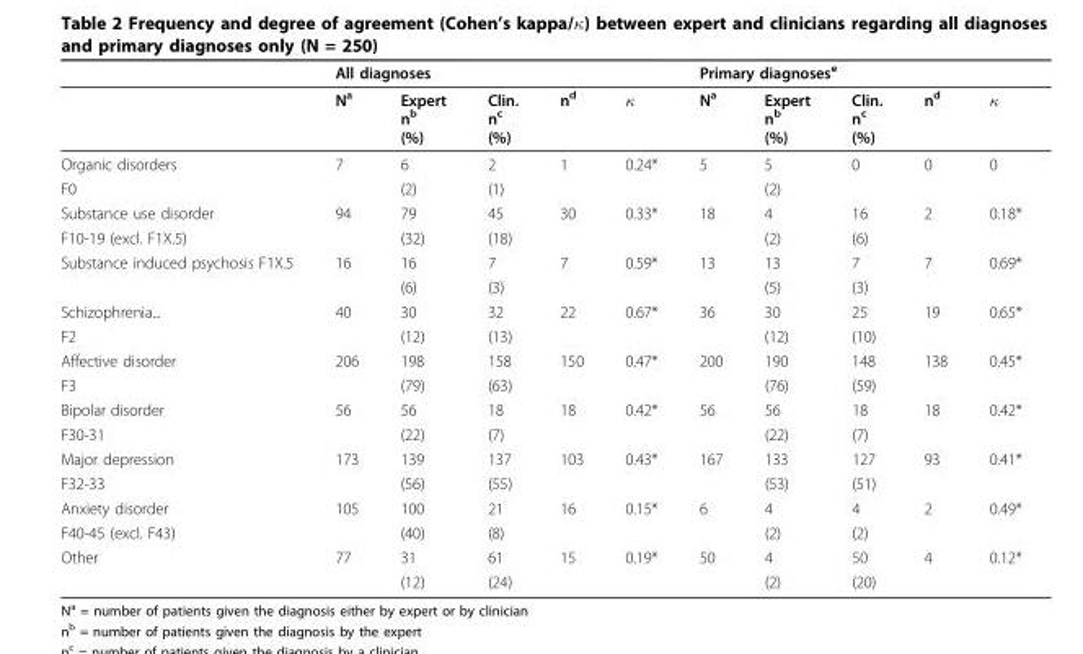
<table><thead><tr><td rowspan="2"></td><td colspan="5">All diagnoses</td><td colspan="5">Primary diagnoses<sup>e</sup></td></tr><tr><td>N<sup>a</sup></td><td>Expert n<sup>b</sup> (%)</td><td>Clin. n<sup>c</sup> (%)</td><td>n<sup>d</sup></td><td>κ</td><td>N<sup>a</sup></td><td>Expert n<sup>b</sup> (%)</td><td>Clin. n<sup>c</sup> (%)</td><td>n<sup>d</sup></td><td>κ</td></tr></thead><tbody><tr><td>Organic disorders</td><td>7</td><td>6</td><td>2</td><td>1</td><td>0.24*</td><td>5</td><td>5</td><td>0</td><td>0</td><td>0</td></tr><tr><td>F0</td><td></td><td>(2)</td><td>(1)</td><td></td><td></td><td></td><td>(2)</td><td></td><td></td><td></td></tr><tr><td>Substance use disorder</td><td>94</td><td>79</td><td>45</td><td>30</td><td>0.33*</td><td>18</td><td>4</td><td>16</td><td>2</td><td>0.18*</td></tr><tr><td>F10-19 (excl. F1X.5)</td><td></td><td>(32)</td><td>(18)</td><td></td><td></td><td></td><td>(2)</td><td>(6)</td><td></td><td></td></tr><tr><td rowspan="2">Substance induced psychosis F1X.5</td><td>16</td><td>16</td><td>7</td><td>7</td><td>0.59*</td><td>13</td><td>13</td><td>7</td><td>7</td><td>0.69*</td></tr><tr><td></td><td>(6)</td><td>(3)</td><td></td><td></td><td></td><td>(5)</td><td>(3)</td><td></td><td></td></tr><tr><td>Schizophrenia...</td><td>40</td><td>30</td><td>32</td><td>22</td><td>0.67*</td><td>36</td><td>30</td><td>25</td><td>19</td><td>0.65*</td></tr><tr><td>F2</td><td></td><td>(12)</td><td>(13)</td><td></td><td></td><td></td><td>(12)</td><td>(10)</td><td></td><td></td></tr><tr><td>Affective disorder</td><td>206</td><td>198</td><td>158</td><td>150</td><td>0.47*</td><td>200</td><td>190</td><td>148</td><td>138</td><td>0.45*</td></tr><tr><td>F3</td><td></td><td>(79)</td><td>(63)</td><td></td><td></td><td></td><td>(76)</td><td>(59)</td><td></td><td></td></tr><tr><td>Bipolar disorder</td><td>56</td><td>56</td><td>18</td><td>18</td><td>0.42*</td><td>56</td><td>56</td><td>18</td><td>18</td><td>0.42*</td></tr><tr><td>F30-31</td><td></td><td>(22)</td><td>(7)</td><td></td><td></td><td></td><td>(22)</td><td>(7)</td><td></td><td></td></tr><tr><td>Major depression</td><td>173</td><td>139</td><td>137</td><td>103</td><td>0.43*</td><td>167</td><td>133</td><td>127</td><td>93</td><td>0.41*</td></tr><tr><td>F32-33</td><td></td><td>(56)</td><td>(55)</td><td></td><td></td><td></td><td>(53)</td><td>(51)</td><td></td><td></td></tr><tr><td>Anxiety disorder</td><td>105</td><td>100</td><td>21</td><td>16</td><td>0.15*</td><td>6</td><td>4</td><td>4</td><td>2</td><td>0.49*</td></tr><tr><td>F40-45 (excl. F43)</td><td></td><td>(40)</td><td>(8)</td><td></td><td></td><td></td><td>(2)</td><td>(2)</td><td></td><td></td></tr><tr><td rowspan="2">Other</td><td>77</td><td>31</td><td>61</td><td>15</td><td>0.19*</td><td>50</td><td>4</td><td>50</td><td>4</td><td>0.12*</td></tr><tr><td></td><td>(12)</td><td>(24)</td><td></td><td></td><td></td><td>(2)</td><td>(20)</td><td></td><td></td></tr></tbody></table>